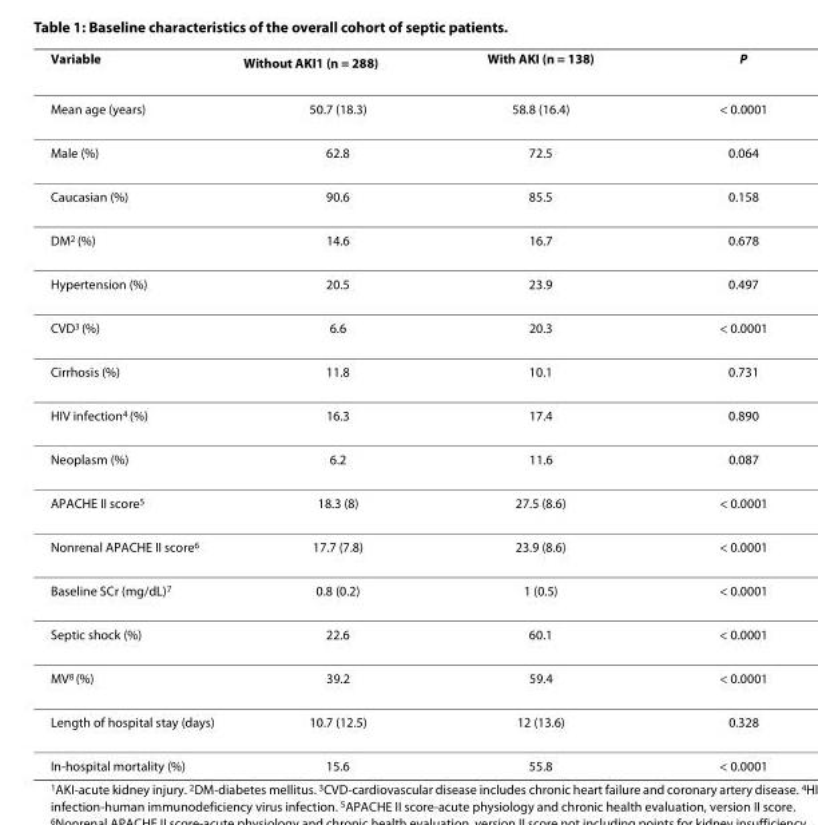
<table><thead><tr><td>Variable</td><td>Without AKI<sup>1</sup> (n = 288)</td><td>With AKI (n = 138)</td><td>P</td></tr></thead><tbody><tr><td>Mean age (years)</td><td>50.7 (18.3)</td><td>58.8 (16.4)</td><td>&lt; 0.0001</td></tr><tr><td>Male (%)</td><td>62.8</td><td>72.5</td><td>0.064</td></tr><tr><td>Caucasian (%)</td><td>90.6</td><td>85.5</td><td>0.158</td></tr><tr><td>DM<sup>2</sup> (%)</td><td>14.6</td><td>16.7</td><td>0.678</td></tr><tr><td>Hypertension (%)</td><td>20.5</td><td>23.9</td><td>0.497</td></tr><tr><td>CVD<sup>3</sup> (%)</td><td>6.6</td><td>20.3</td><td>&lt; 0.0001</td></tr><tr><td>Cirrhosis (%)</td><td>11.8</td><td>10.1</td><td>0.731</td></tr><tr><td>HIV infection<sup>4</sup> (%)</td><td>16.3</td><td>17.4</td><td>0.890</td></tr><tr><td>Neoplasm (%)</td><td>6.2</td><td>11.6</td><td>0.087</td></tr><tr><td>APACHE II score<sup>5</sup></td><td>18.3 (8)</td><td>27.5 (8.6)</td><td>&lt; 0.0001</td></tr><tr><td>Nonrenal APACHE II score<sup>6</sup></td><td>17.7 (7.8)</td><td>23.9 (8.6)</td><td>&lt; 0.0001</td></tr><tr><td>Baseline SCr (mg/dL)<sup>7</sup></td><td>0.8 (0.2)</td><td>1 (0.5)</td><td>&lt; 0.0001</td></tr><tr><td>Septic shock (%)</td><td>22.6</td><td>60.1</td><td>&lt; 0.0001</td></tr><tr><td>MV<sup>8</sup> (%)</td><td>39.2</td><td>59.4</td><td>&lt; 0.0001</td></tr><tr><td>Length of hospital stay (days)</td><td>10.7 (12.5)</td><td>12 (13.6)</td><td>0.328</td></tr><tr><td>In-hospital mortality (%)</td><td>15.6</td><td>55.8</td><td>&lt; 0.0001</td></tr></tbody></table>